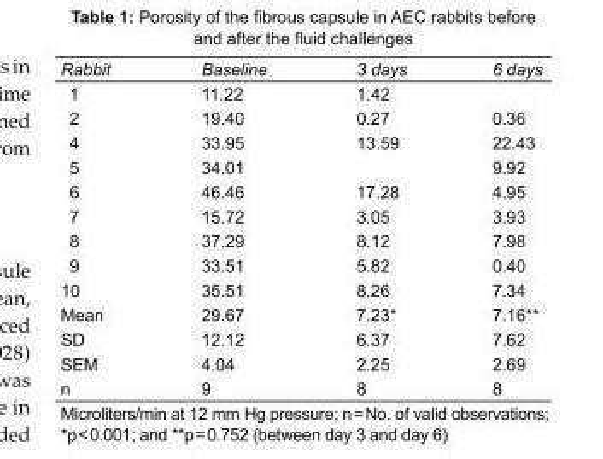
<table><tbody><tr><td>Rabbit</td><td>Baseline</td><td>3 days</td><td>6 days</td></tr><tr><td>1</td><td>11.22</td><td>1.42</td><td></td></tr><tr><td>2</td><td>19.40</td><td>0.27</td><td>0.36</td></tr><tr><td>4</td><td>33.95</td><td>13.59</td><td>22.43</td></tr><tr><td>5</td><td>34.01</td><td></td><td>9.92</td></tr><tr><td>6</td><td>46.46</td><td>17.28</td><td>4.95</td></tr><tr><td>7</td><td>15.72</td><td>3.05</td><td>3.93</td></tr><tr><td>8</td><td>37.29</td><td>8.12</td><td>7.98</td></tr><tr><td>9</td><td>33.51</td><td>5.82</td><td>0.40</td></tr><tr><td>10</td><td>35.51</td><td>8.26</td><td>7.34</td></tr><tr><td>Mean</td><td>29.67</td><td>7.23*</td><td>7.16**</td></tr><tr><td>SD</td><td>12.12</td><td>6.37</td><td>7.62</td></tr><tr><td>SEM</td><td>4.04</td><td>2.25</td><td>2.69</td></tr><tr><td>n</td><td>9</td><td>8</td><td>8</td></tr></tbody></table>